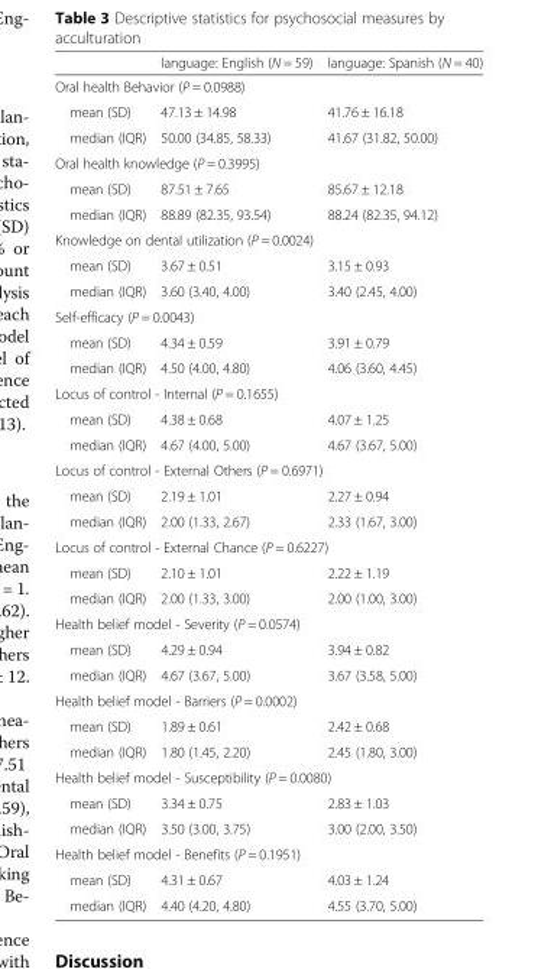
<table><thead><tr><td></td><td>language: English (N = 59)</td><td>language: Spanish (N = 40)</td></tr></thead><tbody><tr><td colspan="3">Oral health Behavior (P = 0.0988)</td></tr><tr><td>mean (SD)</td><td>47.13 ± 14.98</td><td>41.76 ± 16.18</td></tr><tr><td>median (IQR)</td><td>50.00 (34.85, 58.33)</td><td>41.67 (31.82, 50.00)</td></tr><tr><td colspan="3">Oral health knowledge (P = 0.3995)</td></tr><tr><td>mean (SD)</td><td>87.51 ± 7.65</td><td>85.67 ± 12.18</td></tr><tr><td>median (IQR)</td><td>88.89 (82.35, 93.54)</td><td>88.24 (82.35, 94.12)</td></tr><tr><td colspan="3">Knowledge on dental utilization (P = 0.0024)</td></tr><tr><td>mean (SD)</td><td>3.67 ± 0.51</td><td>3.15 ± 0.93</td></tr><tr><td>median (IQR)</td><td>3.60 (3.40, 4.00)</td><td>3.40 (2.45, 4.00)</td></tr><tr><td colspan="3">Self-efficacy (P = 0.0043)</td></tr><tr><td>mean (SD)</td><td>4.34 ± 0.59</td><td>3.91 ± 0.79</td></tr><tr><td>median (IQR)</td><td>4.50 (4.00, 4.80)</td><td>4.06 (3.60, 4.45)</td></tr><tr><td colspan="3">Locus of control - Internal (P = 0.1655)</td></tr><tr><td>mean (SD)</td><td>4.38 ± 0.68</td><td>4.07 ± 1.25</td></tr><tr><td>median (IQR)</td><td>4.67 (4.00, 5.00)</td><td>4.67 (3.67, 5.00)</td></tr><tr><td colspan="3">Locus of control - External Others (P = 0.6971)</td></tr><tr><td>mean (SD)</td><td>2.19 ± 1.01</td><td>2.27 ± 0.94</td></tr><tr><td>median (IQR)</td><td>2.00 (1.33, 2.67)</td><td>2.33 (1.67, 3.00)</td></tr><tr><td colspan="3">Locus of control - External Chance (P = 0.6227)</td></tr><tr><td>mean (SD)</td><td>2.10 ± 1.01</td><td>2.22 ± 1.19</td></tr><tr><td>median (IQR)</td><td>2.00 (1.33, 3.00)</td><td>2.00 (1.00, 3.00)</td></tr><tr><td colspan="3">Health belief model - Severity (P = 0.0574)</td></tr><tr><td>mean (SD)</td><td>4.29 ± 0.94</td><td>3.94 ± 0.82</td></tr><tr><td>median (IQR)</td><td>4.67 (3.67, 5.00)</td><td>3.67 (3.58, 5.00)</td></tr><tr><td colspan="3">Health belief model - Barriers (P = 0.0002)</td></tr><tr><td>mean (SD)</td><td>1.89 ± 0.61</td><td>2.42 ± 0.68</td></tr><tr><td>median (IQR)</td><td>1.80 (1.45, 2.20)</td><td>2.45 (1.80, 3.00)</td></tr><tr><td colspan="3">Health belief model - Susceptibility (P = 0.0080)</td></tr><tr><td>mean (SD)</td><td>3.34 ± 0.75</td><td>2.83 ± 1.03</td></tr><tr><td>median (IQR)</td><td>3.50 (3.00, 3.75)</td><td>3.00 (2.00, 3.50)</td></tr><tr><td colspan="3">Health belief model - Benefits (P = 0.1951)</td></tr><tr><td>mean (SD)</td><td>4.31 ± 0.67</td><td>4.03 ± 1.24</td></tr><tr><td>median (IQR)</td><td>4.40 (4.20, 4.80)</td><td>4.55 (3.70, 5.00)</td></tr></tbody></table>